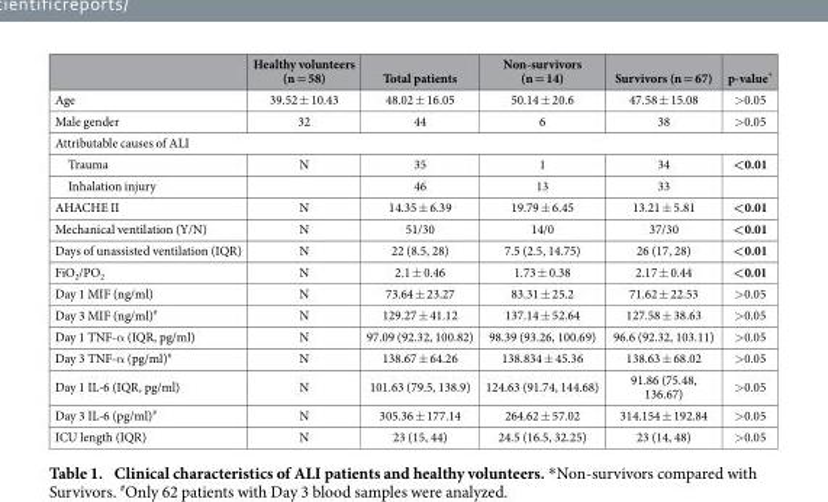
<table><thead><tr><td></td><td>Healthy volunteers (n = 58)</td><td>Total patients</td><td>Non-survivors (n = 14)</td><td>Survivors (n = 67)</td><td>p-value*</td></tr></thead><tbody><tr><td>Age</td><td>39.52 ± 10.43</td><td>48.02 ± 16.05</td><td>50.14 ± 20.6</td><td>47.58 ± 15.08</td><td>&gt; 0.05</td></tr><tr><td>Male gender</td><td>32</td><td>44</td><td>6</td><td>38</td><td>&gt; 0.05</td></tr><tr><td colspan="6">Attributable causes of ALI</td></tr><tr><td>Trauma</td><td>N</td><td>35</td><td>1</td><td>34</td><td>&lt;0.01</td></tr><tr><td>Inhalation injury</td><td></td><td>46</td><td>13</td><td>33</td><td></td></tr><tr><td>AHACHE II</td><td>N</td><td>14.35 ± 6.39</td><td>19.79 ± 6.45</td><td>13.21 ± 5.81</td><td>&lt;0.01</td></tr><tr><td>Mechanical ventilation (Y/N)</td><td>N</td><td>51/30</td><td>14/0</td><td>37/30</td><td>&lt;0.01</td></tr><tr><td>Days of unassisted ventilation (IQR)</td><td>N</td><td>22 (8.5, 28)</td><td>7.5 (2.5, 14.75)</td><td>26 (17, 28)</td><td>&lt;0.01</td></tr><tr><td>FiO<sub>2</sub>/PO<sub>2</sub></td><td>N</td><td>2.1 ± 0.46</td><td>1.73 ± 0.38</td><td>2.17 ± 0.44</td><td>&lt;0.01</td></tr><tr><td>Day 1 MIF (ng/ml)</td><td>N</td><td>73.64 ± 23.27</td><td>83.31 ± 25.2</td><td>71.62 ± 22.53</td><td>&gt; 0.05</td></tr><tr><td>Day 3 MIF (ng/ml)#</td><td>N</td><td>129.27 ± 41.12</td><td>137.14 ± 52.64</td><td>127.58 ± 38.63</td><td>&gt; 0.05</td></tr><tr><td>Day 1 TNF-α (IQR, pg/ml)</td><td>N</td><td>97.09 (92.32, 100.82)</td><td>98.39 (93.26, 100.69)</td><td>96.6 (92.32, 103.11)</td><td>&gt; 0.05</td></tr><tr><td>Day 3 TNF-α (pg/ml)#</td><td>N</td><td>138.67 ± 64.26</td><td>138.834 ± 45.36</td><td>138.63 ± 68.02</td><td>&gt; 0.05</td></tr><tr><td>Day 1 IL-6 (IQR, pg/ml)</td><td>N</td><td>101.63 (79.5, 138.9)</td><td>124.63 (91.74, 144.68)</td><td>91.86 (75.48, 136.67)</td><td>&gt; 0.05</td></tr><tr><td>Day 3 IL-6 (pg/ml)#</td><td>N</td><td>305.36 ± 177.14</td><td>264.62 ± 57.02</td><td>314.154 ± 192.84</td><td>&gt; 0.05</td></tr><tr><td>ICU length (IQR)</td><td>N</td><td>23 (15, 44)</td><td>24.5 (16.5, 32.25)</td><td>23 (14, 48)</td><td>&gt; 0.05</td></tr></tbody></table>